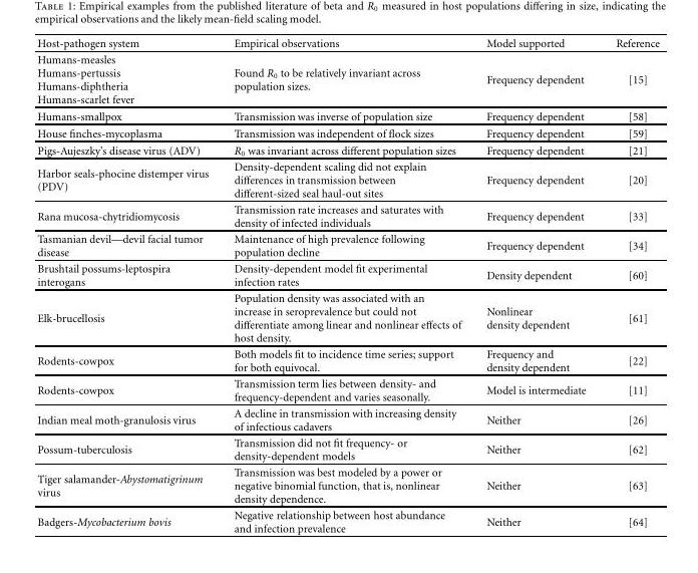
<table><thead><tr><td>Host-pathogen system</td><td>Empirical observations</td><td>Model supported</td><td>Reference</td></tr></thead><tbody><tr><td>Humans-measles Humans-pertussis Humans-diphtheria Humans-scarlet fever</td><td>Found R<sub>0</sub> to be relatively invariant across population sizes.</td><td>Frequency dependent</td><td>[15]</td></tr><tr><td>Humans-smallpox</td><td>Transmission was inverse of population size</td><td>Frequency dependent</td><td>[58]</td></tr><tr><td>House finches-mycoplasma</td><td>Transmission was independent of flock sizes</td><td>Frequency dependent</td><td>[59]</td></tr><tr><td>Pigs-Aujeszky’s disease virus (ADV)</td><td>R<sub>0</sub> was invariant across different population sizes</td><td>Frequency dependent</td><td>[21]</td></tr><tr><td>Harbor seals-phocine distemper virus (PDV)</td><td>Density-dependent scaling did not explain differences in transmission between different-sized seal haul-out sites</td><td>Frequency dependent</td><td>[20]</td></tr><tr><td>Rana mucosa-chytridiomycosis</td><td>Transmission rate increases and saturates with density of infected individuals</td><td>Frequency dependent</td><td>[33]</td></tr><tr><td>Tasmanian devil—devil facial tumor disease</td><td>Maintenance of high prevalence following population decline</td><td>Frequency dependent</td><td>[34]</td></tr><tr><td>Brushtail possums-leptospira interogans</td><td>Density-dependent model fit experimental infection rates</td><td>Density dependent</td><td>[60]</td></tr><tr><td>Elk-brucellosis</td><td>Population density was associated with an increase in seroprevalence but could not differentiate among linear and nonlinear effects of host density.</td><td>Nonlinear density dependent</td><td>[61]</td></tr><tr><td>Rodents-cowpox</td><td>Both models fit to incidence time series; support for both equivocal.</td><td>Frequency and density dependent</td><td>[22]</td></tr><tr><td>Rodents-cowpox</td><td>Transmission term lies between density- and frequency-dependent and varies seasonally.</td><td>Model is intermediate</td><td>[11]</td></tr><tr><td>Indian meal moth-granulosis virus</td><td>A decline in transmission with increasing density of infectious cadavers</td><td>Neither</td><td>[26]</td></tr><tr><td>Possum-tuberculosis</td><td>Transmission did not fit frequency- or density-dependent models</td><td>Neither</td><td>[62]</td></tr><tr><td>Tiger salamander-Abystomatigrinum virus</td><td>Transmission was best modeled by a power or negative binomial function, that is, nonlinear density dependence.</td><td>Neither</td><td>[63]</td></tr><tr><td>Badgers-Mycobacterium bovis</td><td>Negative relationship between host abundance and infection prevalence</td><td>Neither</td><td>[64]</td></tr></tbody></table>